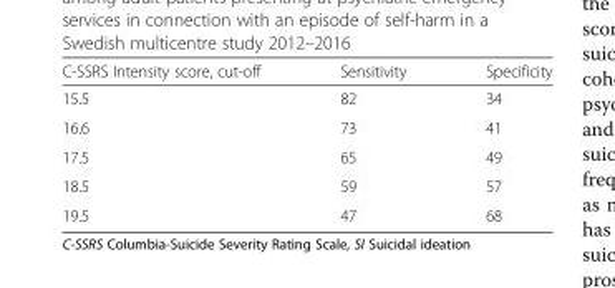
<table><thead><tr><td>C-SSRS Intensity score, cut-off</td><td>Sensitivity</td><td>Specificity</td></tr></thead><tbody><tr><td>15.5</td><td>82</td><td>34</td></tr><tr><td>16.6</td><td>73</td><td>41</td></tr><tr><td>17.5</td><td>65</td><td>49</td></tr><tr><td>18.5</td><td>59</td><td>57</td></tr><tr><td>19.5</td><td>47</td><td>68</td></tr></tbody></table>